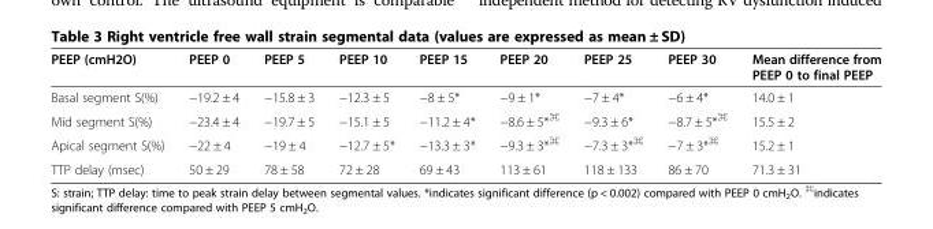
<table><thead><tr><td>PEEP (cmH2O)</td><td>PEEP 0</td><td>PEEP 5</td><td>PEEP 10</td><td>PEEP 15</td><td>PEEP 20</td><td>PEEP 25</td><td>PEEP 30</td><td>Mean difference from PEEP 0 to final PEEP</td></tr></thead><tbody><tr><td>Basal segment S(%)</td><td>−19.2 ± 4</td><td>−15.8 ± 3</td><td>−12.3 ± 5</td><td>−8 ± 5*</td><td>−9 ± 1*</td><td>−7 ± 4*</td><td>−6 ± 4*</td><td>14.0 ± 1</td></tr><tr><td>Mid segment S(%)</td><td>−23.4 ± 4</td><td>−19.7 ± 5</td><td>−15.1 ± 5</td><td>−11.2 ± 4*</td><td>−8.6 ± 5*<sup>⌘</sup></td><td>−9.3 ± 6*</td><td>−8.7 ± 5*<sup>⌘</sup></td><td>15.5 ± 2</td></tr><tr><td>Apical segment S(%)</td><td>−22 ± 4</td><td>−19 ± 4</td><td>−12.7 ± 5*</td><td>−13.3 ± 3*</td><td>−9.3 ± 3*<sup>⌘</sup></td><td>−7.3 ± 3*<sup>⌘</sup></td><td>−7 ± 3*<sup>⌘</sup></td><td>15.2 ± 1</td></tr><tr><td>TTP delay (msec)</td><td>50 ± 29</td><td>78 ± 58</td><td>72 ± 28</td><td>69 ± 43</td><td>113 ± 61</td><td>118 ± 133</td><td>86 ± 70</td><td>71.3 ± 31</td></tr></tbody></table>